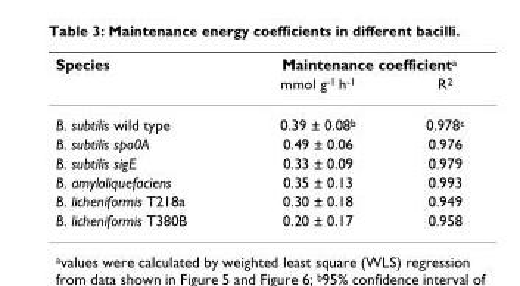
<table><thead><tr><td rowspan="2">Species</td><td colspan="2">Maintenance coefficient<sup>a</sup></td></tr><tr><td>mmol g<sup>-1</sup> h<sup>-1</sup></td><td>R<sup>2</sup></td></tr></thead><tbody><tr><td>B. subtilis wild type</td><td>0.39 ± 0.08<sup>b</sup></td><td>0.978<sup>c</sup></td></tr><tr><td>B. subtilis spo0A</td><td>0.49 ± 0.06</td><td>0.976</td></tr><tr><td>B. subtilis sigE</td><td>0.33 ± 0.09</td><td>0.979</td></tr><tr><td>B. amyloliquefaciens</td><td>0.35 ± 0.13</td><td>0.993</td></tr><tr><td>B. licheniformis T218a</td><td>0.30 ± 0.18</td><td>0.949</td></tr><tr><td>B. licheniformis T380B</td><td>0.20 ± 0.17</td><td>0.958</td></tr></tbody></table>